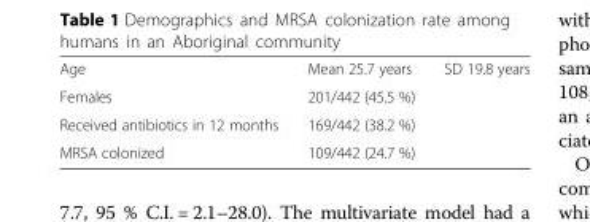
<table><tbody><tr><td>Age</td><td>Mean 25.7 years</td><td>SD 19.8 years</td></tr><tr><td>Females</td><td>201/442 (45.5 %)</td><td></td></tr><tr><td>Received antibiotics in 12 months</td><td>169/442 (38.2 %)</td><td></td></tr><tr><td>MRSA colonized</td><td>109/442 (24.7 %)</td><td></td></tr></tbody></table>